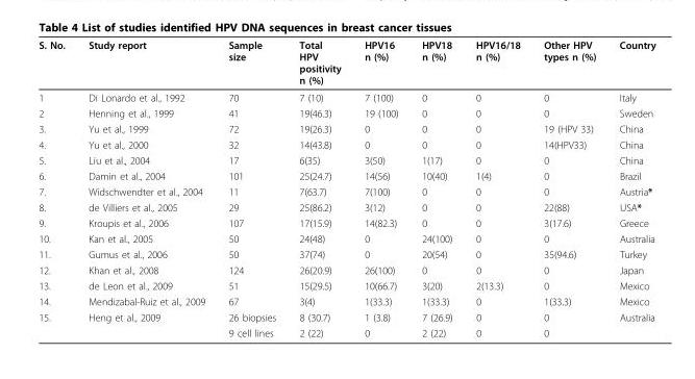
<table><thead><tr><td>S. No.</td><td>Study report</td><td>Sample size</td><td>Total HPV positivity n (%)</td><td>HPV16 n (%)</td><td>HPV18 n (%)</td><td>HPV16/18 n (%)</td><td>Other HPV types n (%)</td><td>Country</td></tr></thead><tbody><tr><td>1</td><td>Di Lonardo et al., 1992</td><td>70</td><td>7 (10)</td><td>7 (100)</td><td>0</td><td>0</td><td>0</td><td>Italy</td></tr><tr><td>2</td><td>Henning et al., 1999</td><td>41</td><td>19(46.3)</td><td>19 (100)</td><td>0</td><td>0</td><td>0</td><td>Sweden</td></tr><tr><td>3.</td><td>Yu et al., 1999</td><td>72</td><td>19(26.3)</td><td>0</td><td>0</td><td>0</td><td>19 (HPV 33)</td><td>China</td></tr><tr><td>4.</td><td>Yu et al., 2000</td><td>32</td><td>14(43.8)</td><td>0</td><td>0</td><td>0</td><td>14(HPV33)</td><td>China</td></tr><tr><td>5.</td><td>Liu et al., 2004</td><td>17</td><td>6(35)</td><td>3(50)</td><td>1(17)</td><td>0</td><td>0</td><td>China</td></tr><tr><td>6.</td><td>Damin et al., 2004</td><td>101</td><td>25(24.7)</td><td>14(56)</td><td>10(40)</td><td>1(4)</td><td>0</td><td>Brazil</td></tr><tr><td>7.</td><td>Widschwendter et al., 2004</td><td>11</td><td>7(63.7)</td><td>7(100)</td><td>0</td><td>0</td><td>0</td><td>Austria*</td></tr><tr><td>8.</td><td>de Villiers et al., 2005</td><td>29</td><td>25(86.2)</td><td>3(12)</td><td>0</td><td>0</td><td>22(88)</td><td>USA*</td></tr><tr><td>9.</td><td>Kroupis et al., 2006</td><td>107</td><td>17(15.9)</td><td>14(82.3)</td><td>0</td><td>0</td><td>3(17.6)</td><td>Greece</td></tr><tr><td>10.</td><td>Kan et al., 2005</td><td>50</td><td>24(48)</td><td>0</td><td>24(100)</td><td>0</td><td>0</td><td>Australia</td></tr><tr><td>11.</td><td>Gumus et al., 2006</td><td>50</td><td>37(74)</td><td>0</td><td>20(54)</td><td>0</td><td>35(94.6)</td><td>Turkey</td></tr><tr><td>12.</td><td>Khan et al., 2008</td><td>124</td><td>26(20.9)</td><td>26(100)</td><td>0</td><td>0</td><td>0</td><td>Japan</td></tr><tr><td>13.</td><td>de Leon et al., 2009</td><td>51</td><td>15(29.5)</td><td>10(66.7)</td><td>3(20)</td><td>2(13.3)</td><td>0</td><td>Mexico</td></tr><tr><td>14.</td><td>Mendizabal-Ruiz et al., 2009</td><td>67</td><td>3(4)</td><td>1(33.3)</td><td>1(33.3)</td><td>0</td><td>1(33.3)</td><td>Mexico</td></tr><tr><td rowspan="2">15.</td><td>Heng et al., 2009</td><td>26 biopsies</td><td>8 (30.7)</td><td>1 (3.8)</td><td>7 (26.9)</td><td>0</td><td>0</td><td>Australia</td></tr><tr><td></td><td>9 cell lines</td><td>2 (22)</td><td>0</td><td>2 (22)</td><td>0</td><td>0</td><td></td></tr></tbody></table>